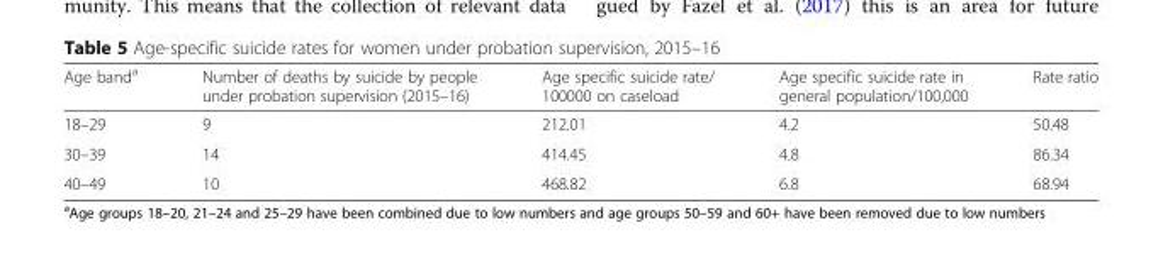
<table><thead><tr><td>Age band<sup>a</sup></td><td>Number of deaths by suicide by people under probation supervision (2015–16)</td><td>Age specific suicide rate/ 100000 on caseload</td><td>Age specific suicide rate in general population/100,000</td><td>Rate ratio</td></tr></thead><tbody><tr><td>18–29</td><td>9</td><td>212.01</td><td>4.2</td><td>50.48</td></tr><tr><td>30–39</td><td>14</td><td>414.45</td><td>4.8</td><td>86.34</td></tr><tr><td>40–49</td><td>10</td><td>468.82</td><td>6.8</td><td>68.94</td></tr></tbody></table>